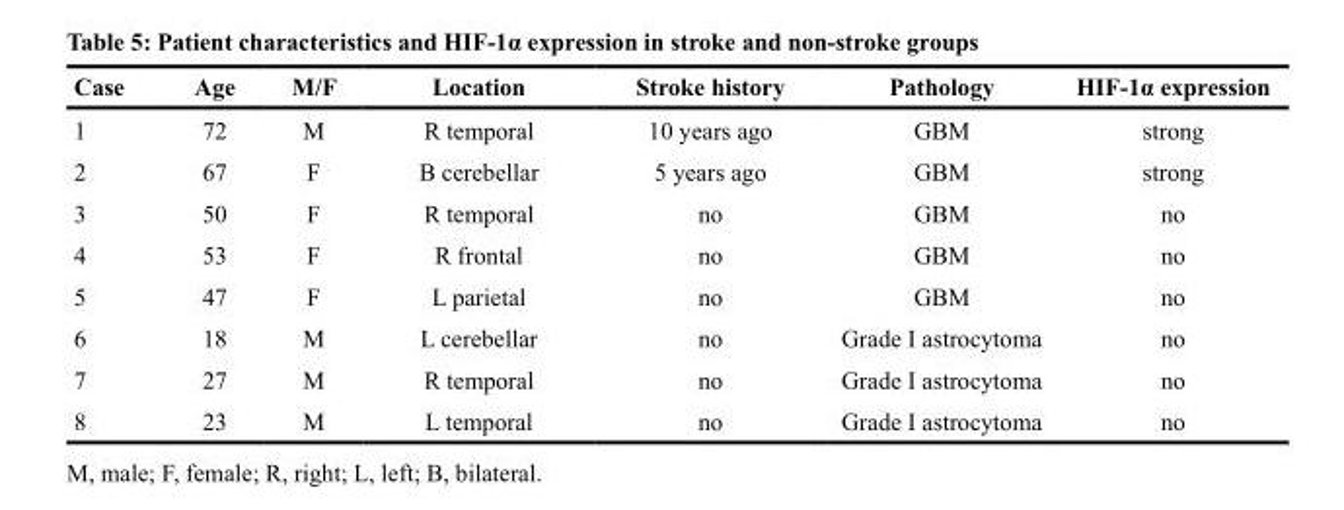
<table><thead><tr><td>Case</td><td>Age</td><td>M/F</td><td>Location</td><td>Stroke history</td><td>Pathology</td><td>HIF-1α expression</td></tr></thead><tbody><tr><td>1</td><td>72</td><td>M</td><td>R temporal</td><td>10 years ago</td><td>GBM</td><td>strong</td></tr><tr><td>2</td><td>67</td><td>F</td><td>B cerebellar</td><td>5 years ago</td><td>GBM</td><td>strong</td></tr><tr><td>3</td><td>50</td><td>F</td><td>R temporal</td><td>no</td><td>GBM</td><td>no</td></tr><tr><td>4</td><td>53</td><td>F</td><td>R frontal</td><td>no</td><td>GBM</td><td>no</td></tr><tr><td>5</td><td>47</td><td>F</td><td>L parietal</td><td>no</td><td>GBM</td><td>no</td></tr><tr><td>6</td><td>18</td><td>M</td><td>L cerebellar</td><td>no</td><td>Grade I astrocytoma</td><td>no</td></tr><tr><td>7</td><td>27</td><td>M</td><td>R temporal</td><td>no</td><td>Grade I astrocytoma</td><td>no</td></tr><tr><td>8</td><td>23</td><td>M</td><td>L temporal</td><td>no</td><td>Grade I astrocytoma</td><td>no</td></tr></tbody></table>